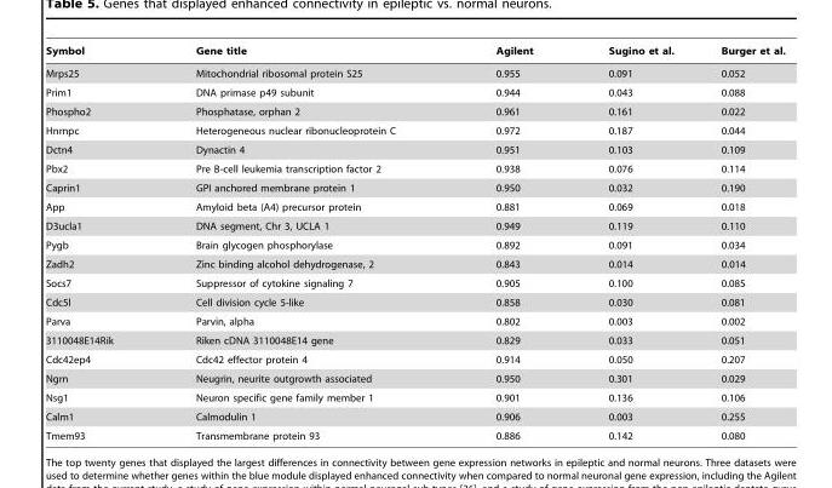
<table><thead><tr><td>Symbol</td><td>Gene title</td><td>Agilent</td><td>Sugino et al.</td><td>Burger et al.</td></tr></thead><tbody><tr><td>Mrps25</td><td>Mitochondrial ribosomal protein S25</td><td>0.955</td><td>0.091</td><td>0.052</td></tr><tr><td>Prim1</td><td>DNA primase p49 subunit</td><td>0.944</td><td>0.043</td><td>0.088</td></tr><tr><td>Phospho2</td><td>Phosphatase, orphan 2</td><td>0.961</td><td>0.161</td><td>0.022</td></tr><tr><td>Hnrnpc</td><td>Heterogeneous nuclear ribonucleoprotein C</td><td>0.972</td><td>0.187</td><td>0.044</td></tr><tr><td>Dctn4</td><td>Dynactin 4</td><td>0.951</td><td>0.103</td><td>0.109</td></tr><tr><td>Pbx2</td><td>Pre B-cell leukemia transcription factor 2</td><td>0.938</td><td>0.076</td><td>0.114</td></tr><tr><td>Caprin1</td><td>GPI anchored membrane protein 1</td><td>0.950</td><td>0.032</td><td>0.190</td></tr><tr><td>App</td><td>Amyloid beta (A4) precursor protein</td><td>0.881</td><td>0.069</td><td>0.018</td></tr><tr><td>D3ucla1</td><td>DNA segment, Chr 3, UCLA 1</td><td>0.949</td><td>0.119</td><td>0.110</td></tr><tr><td>Pygb</td><td>Brain glycogen phosphorylase</td><td>0.892</td><td>0.091</td><td>0.034</td></tr><tr><td>Zadh2</td><td>Zinc binding alcohol dehydrogenase, 2</td><td>0.843</td><td>0.014</td><td>0.014</td></tr><tr><td>Socs7</td><td>Suppressor of cytokine signaling 7</td><td>0.905</td><td>0.100</td><td>0.085</td></tr><tr><td>Cdc5l</td><td>Cell division cycle 5-like</td><td>0.858</td><td>0.030</td><td>0.081</td></tr><tr><td>Parva</td><td>Parvin, alpha</td><td>0.802</td><td>0.003</td><td>0.002</td></tr><tr><td>3110048E14Rik</td><td>Riken cDNA 3110048E14 gene</td><td>0.829</td><td>0.033</td><td>0.051</td></tr><tr><td>Cdc42ep4</td><td>Cdc42 effector protein 4</td><td>0.914</td><td>0.050</td><td>0.207</td></tr><tr><td>Ngrn</td><td>Neugrin, neurite outgrowth associated</td><td>0.950</td><td>0.301</td><td>0.029</td></tr><tr><td>Nsg1</td><td>Neuron specific gene family member 1</td><td>0.901</td><td>0.136</td><td>0.106</td></tr><tr><td>Calm1</td><td>Calmodulin 1</td><td>0.906</td><td>0.003</td><td>0.255</td></tr><tr><td>Tmem93</td><td>Transmembrane protein 93</td><td>0.886</td><td>0.142</td><td>0.080</td></tr></tbody></table>